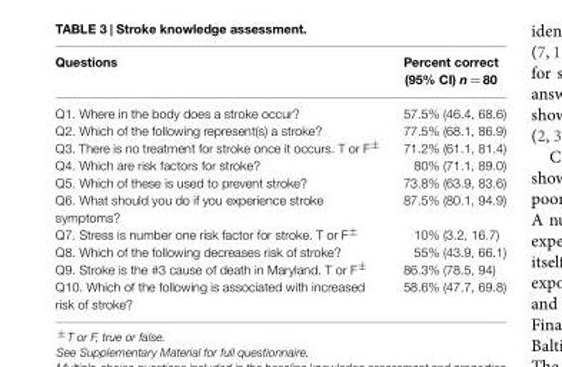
<table><thead><tr><td>Questions</td><td>Percent correct (95% CI) n = 80</td></tr></thead><tbody><tr><td>Q1. Where in the body does a stroke occur?</td><td>57.5% (46.4, 68.6)</td></tr><tr><td>Q2. Which of the following represent(s) a stroke?</td><td>77.5% (68.1, 86.9)</td></tr><tr><td>Q3. There is no treatment for stroke once it occurs. T or F<sup>±</sup></td><td>71.2% (61.1, 81.4)</td></tr><tr><td>Q4. Which are risk factors for stroke?</td><td>80% (71.1, 89.0)</td></tr><tr><td>Q5. Which of these is used to prevent stroke?</td><td>73.8% (63.9, 83.6)</td></tr><tr><td>Q6. What should you do if you experience stroke symptoms?</td><td>87.5% (80.1, 94.9)</td></tr><tr><td>Q7. Stress is number one risk factor for stroke. T or F<sup>±</sup></td><td>10% (3.2, 16.7)</td></tr><tr><td>Q8. Which of the following decreases risk of stroke?</td><td>55% (43.9, 66.1)</td></tr><tr><td>Q9. Stroke is the #3 cause of death in Maryland. T or F<sup>±</sup></td><td>86.3% (78.5, 94)</td></tr><tr><td>Q10. Which of the following is associated with increased risk of stroke?</td><td>58.6% (47.7, 69.8)</td></tr></tbody></table>